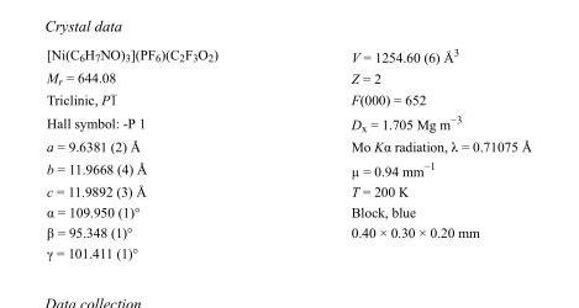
<table><tbody><tr><td>[Ni(C<sub>6</sub>H<sub>7</sub>NO)<sub>3</sub>](PF<sub>6</sub>)(C<sub>2</sub>F<sub>3</sub>O<sub>2</sub>)</td><td>V = 1254.60 (6) Å<sup>3</sup></td></tr><tr><td>M<sub>r</sub> = 644.08</td><td>Z = 2</td></tr><tr><td>Triclinic, P1</td><td>F(000) = 652</td></tr><tr><td>Hall symbol: -P 1</td><td>D<sub>x</sub> = 1.705 Mg m<sup>−3</sup></td></tr><tr><td>a = 9.6381 (2) Å</td><td>Mo Kα radiation, λ = 0.71075 Å</td></tr><tr><td>b = 11.9668 (4) Å</td><td>µ = 0.94 mm<sup>−1</sup></td></tr><tr><td>c = 11.9892 (3) Å</td><td>T = 200 K</td></tr><tr><td>α = 109.950 (1)°</td><td>Block, blue</td></tr><tr><td>β = 95.348 (1)°</td><td>0.40 × 0.30 × 0.20 mm</td></tr><tr><td>γ = 101.411 (1)°</td><td></td></tr></tbody></table>